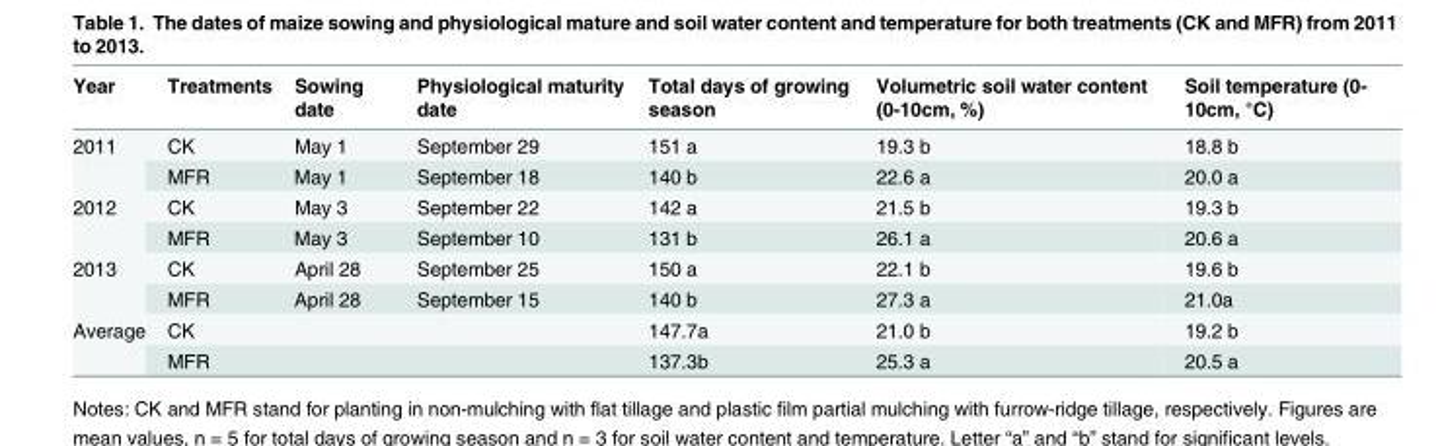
<table><thead><tr><td>Year</td><td>Treatments</td><td>Sowing date</td><td>Physiological maturity date</td><td>Total days of growing season</td><td>Volumetric soil water content (0-10cm, %)</td><td>Soil temperature (0- 10cm, °C)</td></tr></thead><tbody><tr><td rowspan="2">2011</td><td>CK</td><td>May 1</td><td>September 29</td><td>151 a</td><td>19.3 b</td><td>18.8 b</td></tr><tr><td>MFR</td><td>May 1</td><td>September 18</td><td>140 b</td><td>22.6 a</td><td>20.0 a</td></tr><tr><td rowspan="2">2012</td><td>CK</td><td>May 3</td><td>September 22</td><td>142 a</td><td>21.5 b</td><td>19.3 b</td></tr><tr><td>MFR</td><td>May 3</td><td>September 10</td><td>131 b</td><td>26.1 a</td><td>20.6 a</td></tr><tr><td rowspan="2">2013</td><td>CK</td><td>April 28</td><td>September 25</td><td>150 a</td><td>22.1 b</td><td>19.6 b</td></tr><tr><td>MFR</td><td>April 28</td><td>September 15</td><td>140 b</td><td>27.3 a</td><td>21.0a</td></tr><tr><td rowspan="2">Average</td><td>CK</td><td></td><td></td><td>147.7a</td><td>21.0 b</td><td>19.2 b</td></tr><tr><td>MFR</td><td></td><td></td><td>137.3b</td><td>25.3 a</td><td>20.5 a</td></tr></tbody></table>